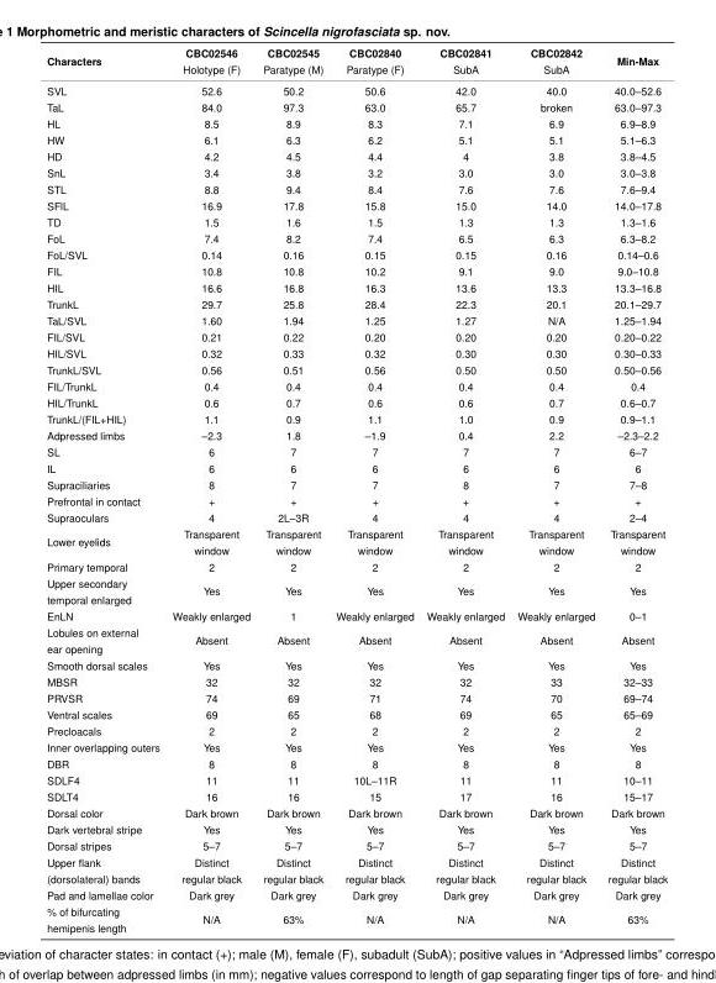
<table><tbody><tr><td rowspan="2">Characters</td><td>CBC02546</td><td>CBC02545</td><td>CBC02840</td><td>CBC02841</td><td>CBC02842</td><td rowspan="2">Min-Max</td></tr><tr><td>Holotype (F)</td><td>Paratype (M)</td><td>Paratype (F)</td><td>SubA</td><td>SubA</td></tr><tr><td>SVL</td><td>52.6</td><td>50.2</td><td>50.6</td><td>42.0</td><td>40.0</td><td>40.0–52.6</td></tr><tr><td>TaL</td><td>84.0</td><td>97.3</td><td>63.0</td><td>65.7</td><td>broken</td><td>63.0–97.3</td></tr><tr><td>HL</td><td>8.5</td><td>8.9</td><td>8.3</td><td>7.1</td><td>6.9</td><td>6.9–8.9</td></tr><tr><td>HW</td><td>6.1</td><td>6.3</td><td>6.2</td><td>5.1</td><td>5.1</td><td>5.1–6.3</td></tr><tr><td>HD</td><td>4.2</td><td>4.5</td><td>4.4</td><td>4</td><td>3.8</td><td>3.8–4.5</td></tr><tr><td>SnL</td><td>3.4</td><td>3.8</td><td>3.2</td><td>3.0</td><td>3.0</td><td>3.0–3.8</td></tr><tr><td>STL</td><td>8.8</td><td>9.4</td><td>8.4</td><td>7.6</td><td>7.6</td><td>7.6–9.4</td></tr><tr><td>SFlL</td><td>16.9</td><td>17.8</td><td>15.8</td><td>15.0</td><td>14.0</td><td>14.0–17.8</td></tr><tr><td>TD</td><td>1.5</td><td>1.6</td><td>1.5</td><td>1.3</td><td>1.3</td><td>1.3–1.6</td></tr><tr><td>FoL</td><td>7.4</td><td>8.2</td><td>7.4</td><td>6.5</td><td>6.3</td><td>6.3–8.2</td></tr><tr><td>FoL/SVL</td><td>0.14</td><td>0.16</td><td>0.15</td><td>0.15</td><td>0.16</td><td>0.14–0.6</td></tr><tr><td>FIL</td><td>10.8</td><td>10.8</td><td>10.2</td><td>9.1</td><td>9.0</td><td>9.0–10.8</td></tr><tr><td>HIL</td><td>16.6</td><td>16.8</td><td>16.3</td><td>13.6</td><td>13.3</td><td>13.3–16.8</td></tr><tr><td>TrunkL</td><td>29.7</td><td>25.8</td><td>28.4</td><td>22.3</td><td>20.1</td><td>20.1–29.7</td></tr><tr><td>TaL/SVL</td><td>1.60</td><td>1.94</td><td>1.25</td><td>1.27</td><td>N/A</td><td>1.25–1.94</td></tr><tr><td>FIL/SVL</td><td>0.21</td><td>0.22</td><td>0.20</td><td>0.20</td><td>0.20</td><td>0.20–0.22</td></tr><tr><td>HIL/SVL</td><td>0.32</td><td>0.33</td><td>0.32</td><td>0.30</td><td>0.30</td><td>0.30–0.33</td></tr><tr><td>TrunkL/SVL</td><td>0.56</td><td>0.51</td><td>0.56</td><td>0.50</td><td>0.50</td><td>0.50–0.56</td></tr><tr><td>FIL/TrunkL</td><td>0.4</td><td>0.4</td><td>0.4</td><td>0.4</td><td>0.4</td><td>0.4</td></tr><tr><td>HIL/TrunkL</td><td>0.6</td><td>0.7</td><td>0.6</td><td>0.6</td><td>0.7</td><td>0.6–0.7</td></tr><tr><td>TrunkL/(FIL+HIL)</td><td>1.1</td><td>0.9</td><td>1.1</td><td>1.0</td><td>0.9</td><td>0.9–1.1</td></tr><tr><td>Adpressed limbs</td><td>–2.3</td><td>1.8</td><td>–1.9</td><td>0.4</td><td>2.2</td><td>–2.3–2.2</td></tr><tr><td>SL</td><td>6</td><td>7</td><td>7</td><td>7</td><td>7</td><td>6–7</td></tr><tr><td>IL</td><td>6</td><td>6</td><td>6</td><td>6</td><td>6</td><td>6</td></tr><tr><td>Supraciliaries</td><td>8</td><td>7</td><td>7</td><td>8</td><td>7</td><td>7–8</td></tr><tr><td>Prefrontal in contact</td><td>+</td><td>+</td><td>+</td><td>+</td><td>+</td><td>+</td></tr><tr><td>Supraoculars</td><td>4</td><td>2L–3R</td><td>4</td><td>4</td><td>4</td><td>2–4</td></tr><tr><td>Lower eyelids</td><td>Transparent window</td><td>Transparent window</td><td>Transparent window</td><td>Transparent window</td><td>Transparent window</td><td>Transparent window</td></tr><tr><td>Primary temporal</td><td>2</td><td>2</td><td>2</td><td>2</td><td>2</td><td>2</td></tr><tr><td>Upper secondary temporal enlarged</td><td>Yes</td><td>Yes</td><td>Yes</td><td>Yes</td><td>Yes</td><td>Yes</td></tr><tr><td>EnLN</td><td>Weakly enlarged</td><td>1</td><td>Weakly enlarged</td><td>Weakly enlarged</td><td>Weakly enlarged</td><td>0–1</td></tr><tr><td>Lobules on external ear opening</td><td>Absent</td><td>Absent</td><td>Absent</td><td>Absent</td><td>Absent</td><td>Absent</td></tr><tr><td>Smooth dorsal scales</td><td>Yes</td><td>Yes</td><td>Yes</td><td>Yes</td><td>Yes</td><td>Yes</td></tr><tr><td>MBSR</td><td>32</td><td>32</td><td>32</td><td>32</td><td>33</td><td>32–33</td></tr><tr><td>PRVSR</td><td>74</td><td>69</td><td>71</td><td>74</td><td>70</td><td>69–74</td></tr><tr><td>Ventral scales</td><td>69</td><td>65</td><td>68</td><td>69</td><td>65</td><td>65–69</td></tr><tr><td>Precloacals</td><td>2</td><td>2</td><td>2</td><td>2</td><td>2</td><td>2</td></tr><tr><td>Inner overlapping outers</td><td>Yes</td><td>Yes</td><td>Yes</td><td>Yes</td><td>Yes</td><td>Yes</td></tr><tr><td>DBR</td><td>8</td><td>8</td><td>8</td><td>8</td><td>8</td><td>8</td></tr><tr><td>SDLF4</td><td>11</td><td>11</td><td>10L–11R</td><td>11</td><td>11</td><td>10–11</td></tr><tr><td>SDLT4</td><td>16</td><td>16</td><td>15</td><td>17</td><td>16</td><td>15–17</td></tr><tr><td>Dorsal color</td><td>Dark brown</td><td>Dark brown</td><td>Dark brown</td><td>Dark brown</td><td>Dark brown</td><td>Dark brown</td></tr><tr><td>Dark vertebral stripe</td><td>Yes</td><td>Yes</td><td>Yes</td><td>Yes</td><td>Yes</td><td>Yes</td></tr><tr><td>Dorsal stripes</td><td>5–7</td><td>5–7</td><td>5–7</td><td>5–7</td><td>5–7</td><td>5–7</td></tr><tr><td>Upper flank (dorsolateral) bands</td><td>Distinct regular black</td><td>Distinct regular black</td><td>Distinct regular black</td><td>Distinct regular black</td><td>Distinct regular black</td><td>Distinct regular black</td></tr><tr><td>Pad and lamellae color</td><td>Dark grey</td><td>Dark grey</td><td>Dark grey</td><td>Dark grey</td><td>Dark grey</td><td>Dark grey</td></tr><tr><td>% of bifurcating hemipenis length</td><td>N/A</td><td>63%</td><td>N/A</td><td>N/A</td><td>N/A</td><td>63%</td></tr></tbody></table>